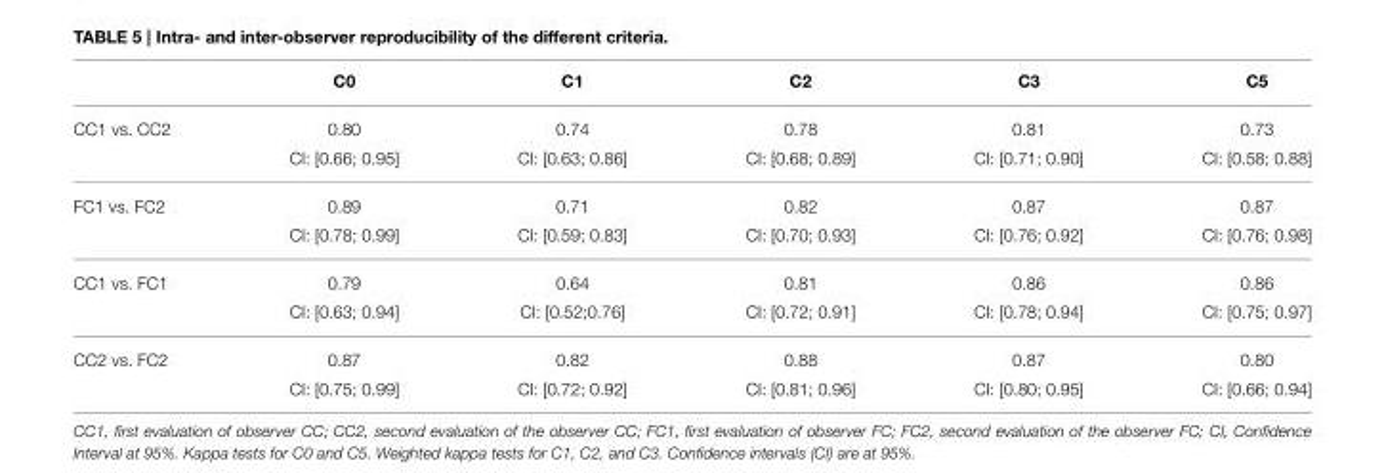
<table><thead><tr><td></td><td>C0</td><td>C1</td><td>C2</td><td>C3</td><td>C5</td></tr></thead><tbody><tr><td rowspan="2">CC1 vs. CC2</td><td>0.80</td><td>0.74</td><td>0.78</td><td>0.81</td><td>0.73</td></tr><tr><td>CI: [0.66; 0.95]</td><td>CI: [0.63; 0.86]</td><td>CI: [0.68; 0.89]</td><td>CI: [0.71; 0.90]</td><td>CI: [0.58; 0.88]</td></tr><tr><td rowspan="2">FC1 vs. FC2</td><td>0.89</td><td>0.71</td><td>0.82</td><td>0.87</td><td>0.87</td></tr><tr><td>CI: [0.78; 0.99]</td><td>CI: [0.59; 0.83]</td><td>CI: [0.70; 0.93]</td><td>CI: [0.76; 0.92]</td><td>CI: [0.76; 0.98]</td></tr><tr><td rowspan="2">CC1 vs. FC1</td><td>0.79</td><td>0.64</td><td>0.81</td><td>0.86</td><td>0.86</td></tr><tr><td>CI: [0.63; 0.94]</td><td>CI: [0.52;0.76]</td><td>CI: [0.72; 0.91]</td><td>CI: [0.78; 0.94]</td><td>CI: [0.75; 0.97]</td></tr><tr><td rowspan="2">CC2 vs. FC2</td><td>0.87</td><td>0.82</td><td>0.88</td><td>0.87</td><td>0.80</td></tr><tr><td>CI: [0.75; 0.99]</td><td>CI: [0.72; 0.92]</td><td>CI: [0.81; 0.96]</td><td>CI: [0.80; 0.95]</td><td>CI: [0.66; 0.94]</td></tr></tbody></table>